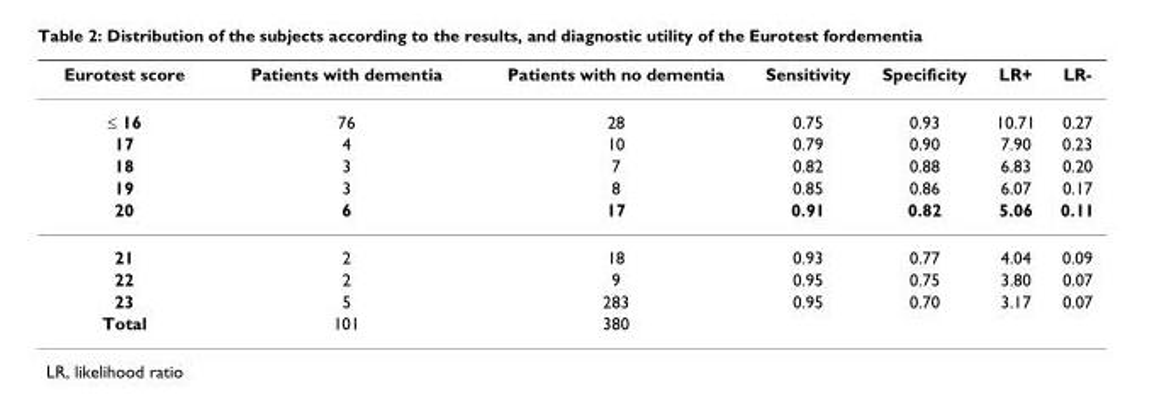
<table><thead><tr><td>Eurotest score</td><td>Patients with dementia</td><td>Patients with no dementia</td><td>Sensitivity</td><td>Specificity</td><td>LR+</td><td>LR-</td></tr></thead><tbody><tr><td>≤ 16</td><td>76</td><td>28</td><td>0.75</td><td>0.93</td><td>10.71</td><td>0.27</td></tr><tr><td>17</td><td>4</td><td>10</td><td>0.79</td><td>0.90</td><td>7.90</td><td>0.23</td></tr><tr><td>18</td><td>3</td><td>7</td><td>0.82</td><td>0.88</td><td>6.83</td><td>0.20</td></tr><tr><td>19</td><td>3</td><td>8</td><td>0.85</td><td>0.86</td><td>6.07</td><td>0.17</td></tr><tr><td>20</td><td>6</td><td>17</td><td>0.91</td><td>0.82</td><td>5.06</td><td>0.11</td></tr><tr><td>21</td><td>2</td><td>18</td><td>0.93</td><td>0.77</td><td>4.04</td><td>0.09</td></tr><tr><td>22</td><td>2</td><td>9</td><td>0.95</td><td>0.75</td><td>3.80</td><td>0.07</td></tr><tr><td>23</td><td>5</td><td>283</td><td>0.95</td><td>0.70</td><td>3.17</td><td>0.07</td></tr><tr><td>Total</td><td>101</td><td>380</td><td></td><td></td><td></td><td></td></tr></tbody></table>